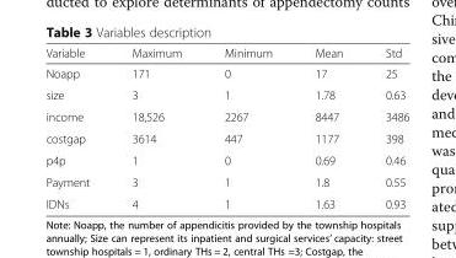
<table><thead><tr><td>Variable</td><td>Maximum</td><td>Minimum</td><td>Mean</td><td>Std</td></tr></thead><tbody><tr><td>Noapp</td><td>171</td><td>0</td><td>17</td><td>25</td></tr><tr><td>size</td><td>3</td><td>1</td><td>1.78</td><td>0.63</td></tr><tr><td>income</td><td>18,526</td><td>2267</td><td>8447</td><td>3486</td></tr><tr><td>costgap</td><td>3614</td><td>447</td><td>1177</td><td>398</td></tr><tr><td>p4p</td><td>1</td><td>0</td><td>0.69</td><td>0.46</td></tr><tr><td>Payment</td><td>3</td><td>1</td><td>1.8</td><td>0.55</td></tr><tr><td>IDNs</td><td>4</td><td>1</td><td>1.63</td><td>0.93</td></tr></tbody></table>